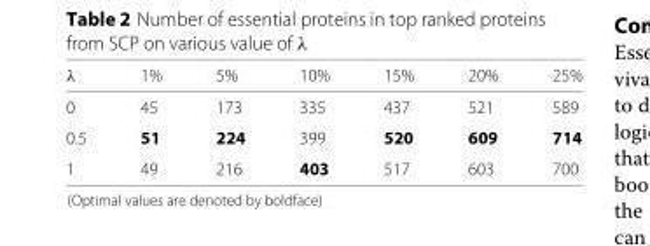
<table><thead><tr><td>λ</td><td>1%</td><td>5%</td><td>10%</td><td>15%</td><td>20%</td><td>25%</td></tr></thead><tbody><tr><td>0</td><td>45</td><td>173</td><td>335</td><td>437</td><td>521</td><td>589</td></tr><tr><td>0.5</td><td>51</td><td>224</td><td>399</td><td>520</td><td>609</td><td>714</td></tr><tr><td>1</td><td>49</td><td>216</td><td>403</td><td>517</td><td>603</td><td>700</td></tr></tbody></table>